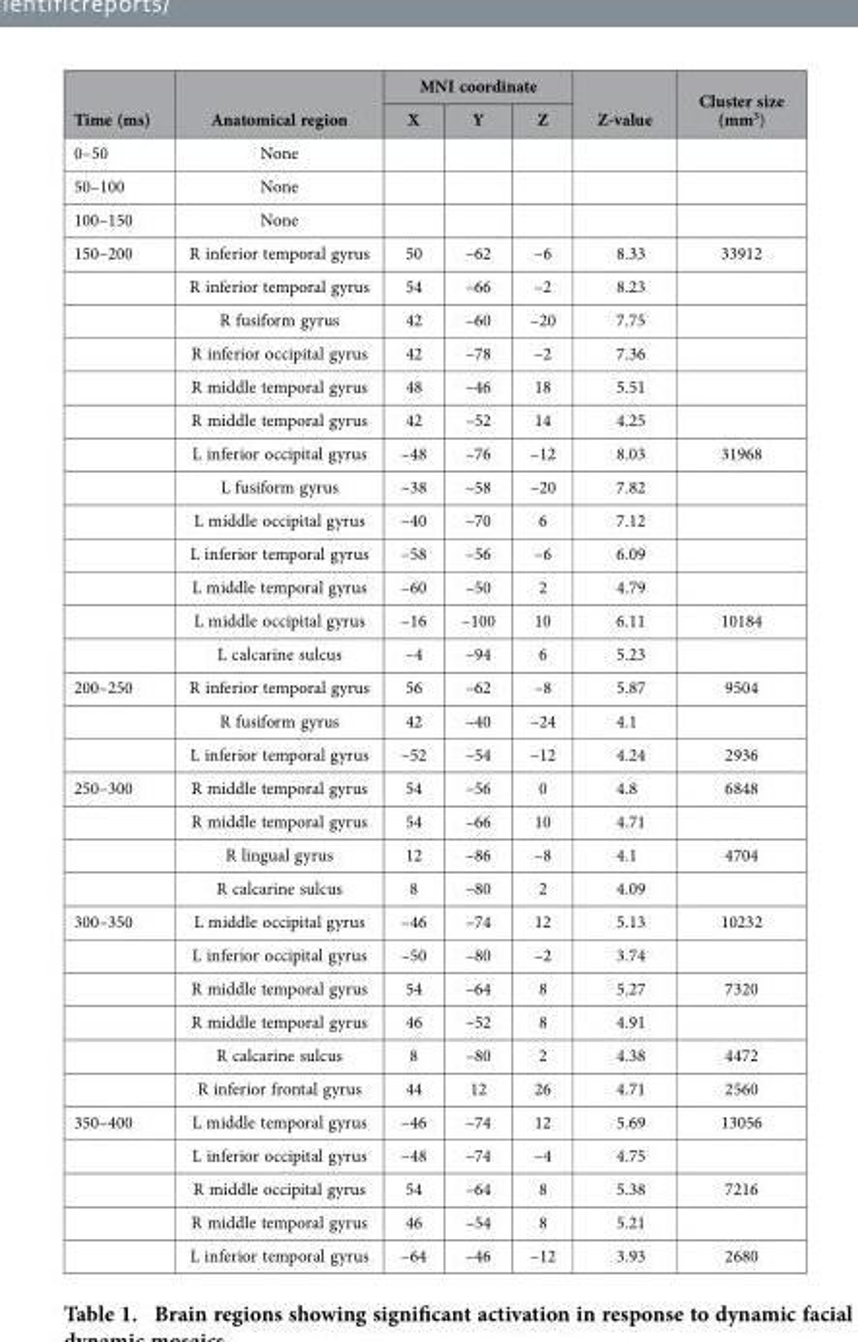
<table><thead><tr><td rowspan="2">Time (ms)</td><td rowspan="2">Anatomical region</td><td colspan="3">MNI coordinate</td><td rowspan="2">Z-value</td><td rowspan="2">Cluster size (mm<sup>3</sup>)</td></tr><tr><td>X</td><td>Y</td><td>Z</td></tr></thead><tbody><tr><td>0–50</td><td>None</td><td></td><td></td><td></td><td></td><td></td></tr><tr><td>50–100</td><td>None</td><td></td><td></td><td></td><td></td><td></td></tr><tr><td>100–150</td><td>None</td><td></td><td></td><td></td><td></td><td></td></tr><tr><td rowspan="13">150–200</td><td>R inferior temporal gyrus</td><td>50</td><td>–62</td><td>–6</td><td>8.33</td><td>33912</td></tr><tr><td>R inferior temporal gyrus</td><td>54</td><td>–66</td><td>–2</td><td>8.23</td><td></td></tr><tr><td>R fusiform gyrus</td><td>42</td><td>–60</td><td>–20</td><td>7.75</td><td></td></tr><tr><td>R inferior occipital gyrus</td><td>42</td><td>–78</td><td>–2</td><td>7.36</td><td></td></tr><tr><td>R middle temporal gyrus</td><td>48</td><td>–46</td><td>18</td><td>5.51</td><td></td></tr><tr><td>R middle temporal gyrus</td><td>42</td><td>–52</td><td>14</td><td>4.25</td><td></td></tr><tr><td>L inferior occipital gyrus</td><td>–48</td><td>–76</td><td>–12</td><td>8.03</td><td>31968</td></tr><tr><td>L fusiform gyrus</td><td>–38</td><td>–58</td><td>–20</td><td>7.82</td><td></td></tr><tr><td>L middle occipital gyrus</td><td>–40</td><td>–70</td><td>6</td><td>7.12</td><td></td></tr><tr><td>L inferior temporal gyrus</td><td>–58</td><td>–56</td><td>–6</td><td>6.09</td><td></td></tr><tr><td>L middle temporal gyrus</td><td>–60</td><td>–50</td><td>2</td><td>4.79</td><td></td></tr><tr><td>L middle occipital gyrus</td><td>–16</td><td>–100</td><td>10</td><td>6.11</td><td>10184</td></tr><tr><td>L calcarine sulcus</td><td>–4</td><td>–94</td><td>6</td><td>5.23</td><td></td></tr><tr><td rowspan="3">200–250</td><td>R inferior temporal gyrus</td><td>56</td><td>–62</td><td>–8</td><td>5.87</td><td>9504</td></tr><tr><td>R fusiform gyrus</td><td>42</td><td>–40</td><td>–24</td><td>4.1</td><td></td></tr><tr><td>L inferior temporal gyrus</td><td>–52</td><td>–54</td><td>–12</td><td>4.24</td><td>2936</td></tr><tr><td rowspan="4">250–300</td><td>R middle temporal gyrus</td><td>54</td><td>–56</td><td>0</td><td>4.8</td><td>6848</td></tr><tr><td>R middle temporal gyrus</td><td>54</td><td>–66</td><td>10</td><td>4.71</td><td></td></tr><tr><td>R lingual gyrus</td><td>12</td><td>–86</td><td>–8</td><td>4.1</td><td>4704</td></tr><tr><td>R calcarine sulcus</td><td>8</td><td>–80</td><td>2</td><td>4.09</td><td></td></tr><tr><td rowspan="6">300–350</td><td>L middle occipital gyrus</td><td>–46</td><td>–74</td><td>12</td><td>5.13</td><td>10232</td></tr><tr><td>L inferior occipital gyrus</td><td>–50</td><td>–80</td><td>–2</td><td>3.74</td><td></td></tr><tr><td>R middle temporal gyrus</td><td>54</td><td>–64</td><td>8</td><td>5.27</td><td>7320</td></tr><tr><td>R middle temporal gyrus</td><td>46</td><td>–52</td><td>8</td><td>4.91</td><td></td></tr><tr><td>R calcarine sulcus</td><td>8</td><td>–80</td><td>2</td><td>4.38</td><td>4472</td></tr><tr><td>R inferior frontal gyrus</td><td>44</td><td>12</td><td>26</td><td>4.71</td><td>2560</td></tr><tr><td rowspan="5">350–400</td><td>L middle temporal gyrus</td><td>–46</td><td>–74</td><td>12</td><td>5.69</td><td>13056</td></tr><tr><td>L inferior occipital gyrus</td><td>–48</td><td>–74</td><td>–4</td><td>4.75</td><td></td></tr><tr><td>R middle occipital gyrus</td><td>54</td><td>–64</td><td>8</td><td>5.38</td><td>7216</td></tr><tr><td>R middle temporal gyrus</td><td>46</td><td>–54</td><td>8</td><td>5.21</td><td></td></tr><tr><td>L inferior temporal gyrus</td><td>–64</td><td>–46</td><td>–12</td><td>3.93</td><td>2680</td></tr></tbody></table>